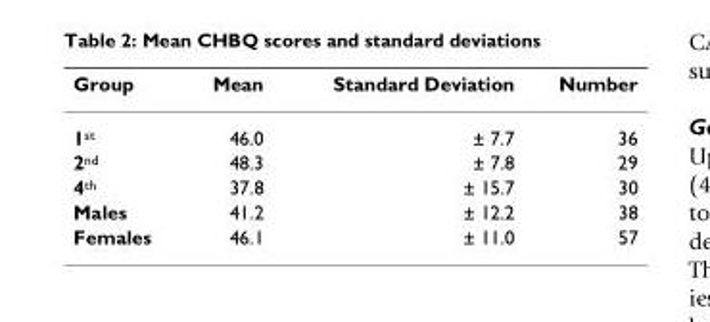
<table><thead><tr><td>Group</td><td>Mean</td><td>Standard Deviation</td><td>Number</td></tr></thead><tbody><tr><td>1<sup>st</sup></td><td>46.0</td><td>± 7.7</td><td>36</td></tr><tr><td>2<sup>nd</sup></td><td>48.3</td><td>± 7.8</td><td>29</td></tr><tr><td>4<sup>th</sup></td><td>37.8</td><td>± 15.7</td><td>30</td></tr><tr><td>Males</td><td>41.2</td><td>± 12.2</td><td>38</td></tr><tr><td>Females</td><td>46.1</td><td>± 11.0</td><td>57</td></tr></tbody></table>